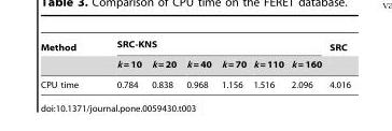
<table><thead><tr><td rowspan="2">Method</td><td colspan="6">SRC-KNS</td><td rowspan="2">SRC</td></tr><tr><td>k = 10</td><td>k = 20</td><td>k = 40</td><td>k = 70</td><td>k = 110</td><td>k = 160</td></tr></thead><tbody><tr><td>CPU time</td><td>0.784</td><td>0.838</td><td>0.968</td><td>1.156</td><td>1.516</td><td>2.096</td><td>4.016</td></tr></tbody></table>